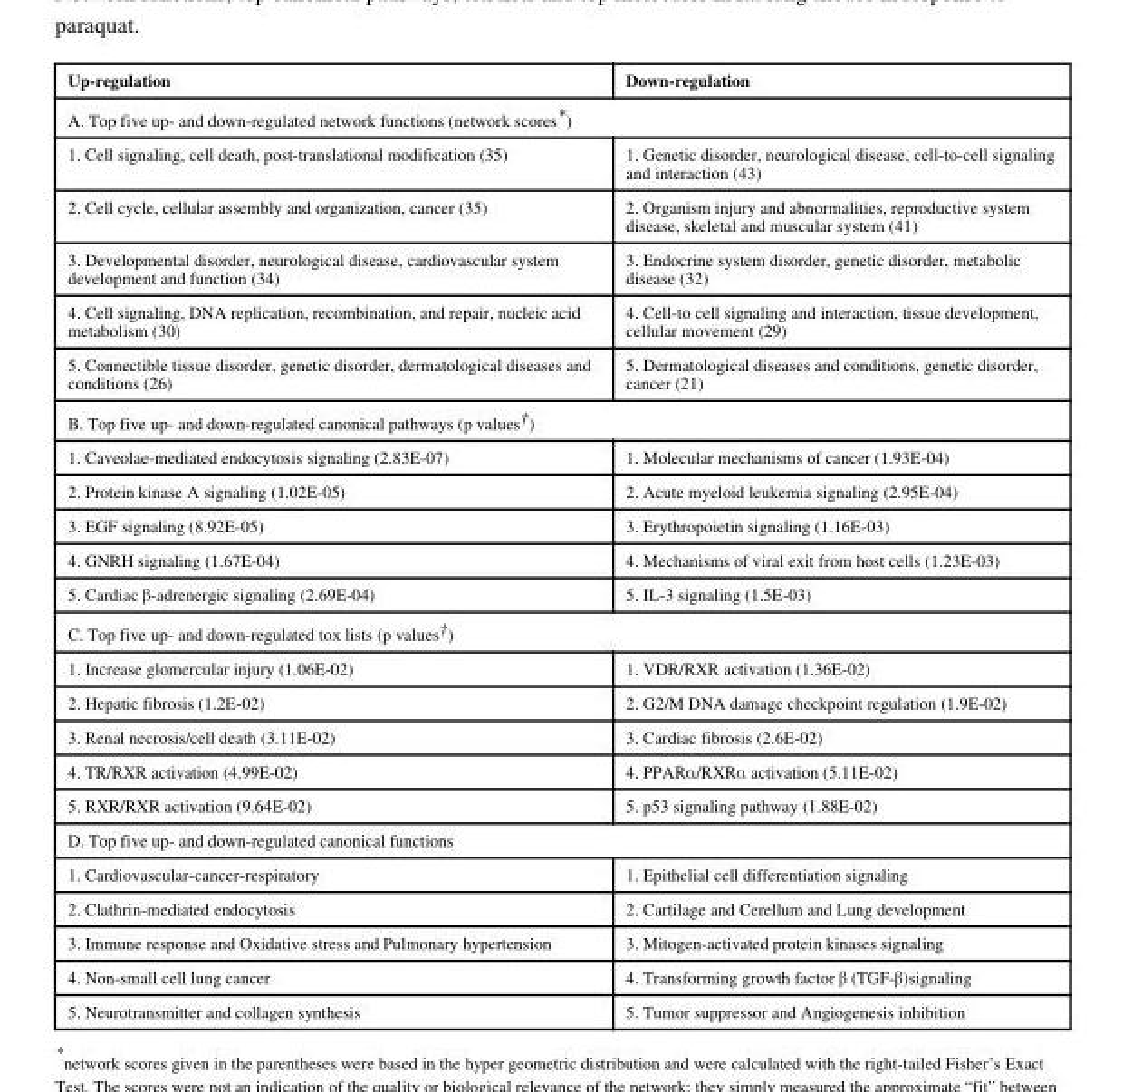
<table><thead><tr><td>Up-regulation</td><td>Down-regulation</td></tr></thead><tbody><tr><td colspan="2">A. Top five up- and down-regulated network functions (network scores*)</td></tr><tr><td>1. Cell signaling, cell death, post-translational modification (35)</td><td>1. Genetic disorder, neurological disease, cell-to-cell signaling and interaction (43)</td></tr><tr><td>2. Cell cycle, cellular assembly and organization, cancer (35)</td><td>2. Organism injury and abnormalities, reproductive system disease, skeletal and muscular system (41)</td></tr><tr><td>3. Developmental disorder, neurological disease, cardiovascular system development and function (34)</td><td>3. Endocrine system disorder, genetic disorder, metabolic disease (32)</td></tr><tr><td>4. Cell signaling, DNA replication, recombination, and repair, nucleic acid metabolism (30)</td><td>4. Cell-to cell signaling and interaction, tissue development, cellular movement (29)</td></tr><tr><td>5. Connectible tissue disorder, genetic disorder, dermatological diseases and conditions (26)</td><td>5. Dermatological diseases and conditions, genetic disorder, cancer (21)</td></tr><tr><td colspan="2">B. Top five up- and down-regulated canonical pathways (p values†)</td></tr><tr><td>1. Caveolae-mediated endocytosis signaling (2.83E-07)</td><td>1. Molecular mechanisms of cancer (1.93E-04)</td></tr><tr><td>2. Protein kinase A signaling (1.02E-05)</td><td>2. Acute myeloid leukemia signaling (2.95E-04)</td></tr><tr><td>3. EGF signaling (8.92E-05)</td><td>3. Erythropoietin signaling (1.16E-03)</td></tr><tr><td>4. GNRH signaling (1.67E-04)</td><td>4. Mechanisms of viral exit from host cells (1.23E-03)</td></tr><tr><td>5. Cardiac β-adrenergic signaling (2.69E-04)</td><td>5. IL-3 signaling (1.5E-03)</td></tr><tr><td colspan="2">C. Top five up- and down-regulated tox lists (p values†)</td></tr><tr><td>1. Increase glomercular injury (1.06E-02)</td><td>1. VDR/RXR activation (1.36E-02)</td></tr><tr><td>2. Hepatic fibrosis (1.2E-02)</td><td>2. G2/M DNA damage checkpoint regulation (1.9E-02)</td></tr><tr><td>3. Renal necrosis/cell death (3.11E-02)</td><td>3. Cardiac fibrosis (2.6E-02)</td></tr><tr><td>4. TR/RXR activation (4.99E-02)</td><td>4. PPARα/RXRα activation (5.11E-02)</td></tr><tr><td>5. RXR/RXR activation (9.64E-02)</td><td>5. p53 signaling pathway (1.88E-02)</td></tr><tr><td colspan="2">D. Top five up- and down-regulated canonical functions</td></tr><tr><td>1. Cardiovascular-cancer-respiratory</td><td>1. Epithelial cell differentiation signaling</td></tr><tr><td>2. Clathrin-mediated endocytosis</td><td>2. Cartilage and Cerellum and Lung development</td></tr><tr><td>3. Immune response and Oxidative stress and Pulmonary hypertension</td><td>3. Mitogen-activated protein kinases signaling</td></tr><tr><td>4. Non-small cell lung cancer</td><td>4. Transforming growth factor β (TGF-β)signaling</td></tr><tr><td>5. Neurotransmitter and collagen synthesis</td><td>5. Tumor suppressor and Angiogenesis inhibition</td></tr></tbody></table>